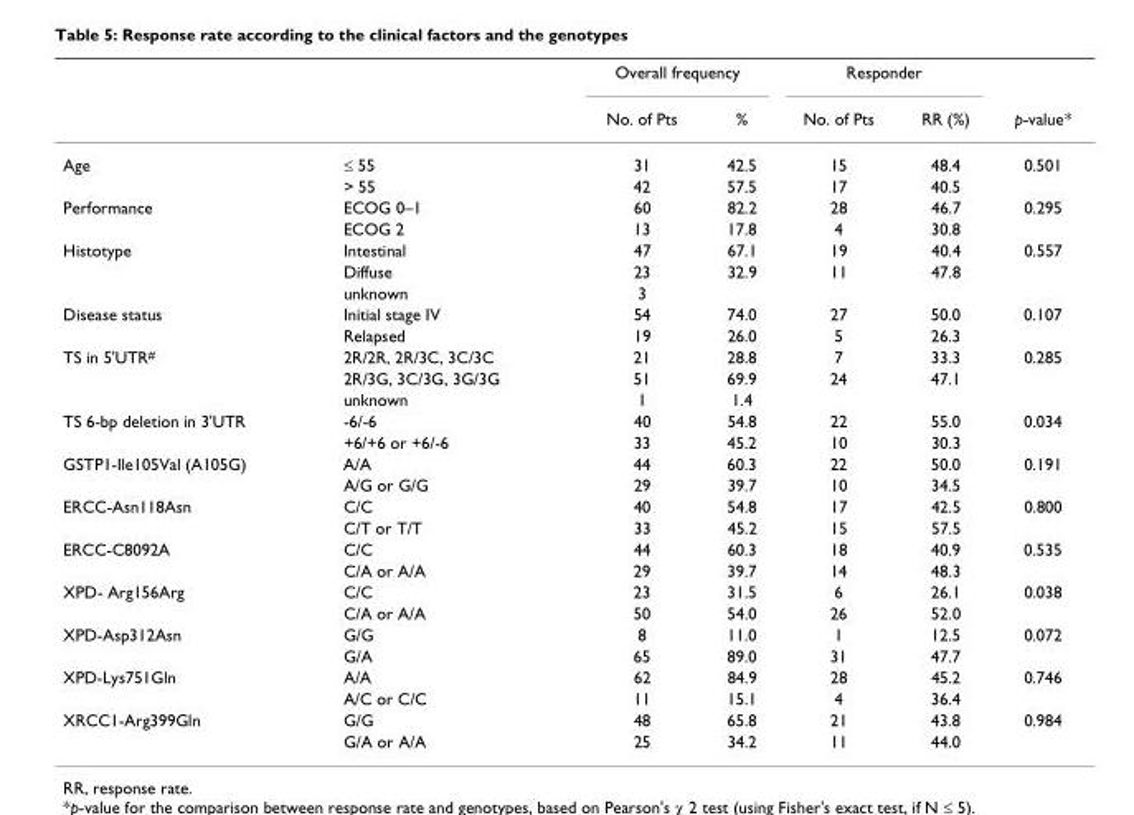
<table><thead><tr><td rowspan="2"></td><td rowspan="2"></td><td colspan="2">Overall frequency</td><td colspan="2">Responder</td><td rowspan="2">p-value*</td></tr><tr><td>No. of Pts</td><td>%</td><td>No. of Pts</td><td>RR (%)</td></tr></thead><tbody><tr><td rowspan="2">Age</td><td>≤ 55</td><td>31</td><td>42.5</td><td>15</td><td>48.4</td><td>0.501</td></tr><tr><td>&gt; 55</td><td>42</td><td>57.5</td><td>17</td><td>40.5</td><td></td></tr><tr><td rowspan="2">Performance</td><td>ECOG 0–1</td><td>60</td><td>82.2</td><td>28</td><td>46.7</td><td>0.295</td></tr><tr><td>ECOG 2</td><td>13</td><td>17.8</td><td>4</td><td>30.8</td><td></td></tr><tr><td rowspan="3">Histotype</td><td>Intestinal</td><td>47</td><td>67.1</td><td>19</td><td>40.4</td><td>0.557</td></tr><tr><td>Diffuse</td><td>23</td><td>32.9</td><td>11</td><td>47.8</td><td></td></tr><tr><td>unknown</td><td>3</td><td></td><td></td><td></td><td></td></tr><tr><td rowspan="2">Disease status</td><td>Initial stage IV</td><td>54</td><td>74.0</td><td>27</td><td>50.0</td><td>0.107</td></tr><tr><td>Relapsed</td><td>19</td><td>26.0</td><td>5</td><td>26.3</td><td></td></tr><tr><td rowspan="3">TS in 5&#x27;UTR<sup>#</sup></td><td>2R/2R, 2R/3C, 3C/3C</td><td>21</td><td>28.8</td><td>7</td><td>33.3</td><td>0.285</td></tr><tr><td>2R/3G, 3C/3G, 3G/3G</td><td>51</td><td>69.9</td><td>24</td><td>47.1</td><td></td></tr><tr><td>unknown</td><td>1</td><td>1.4</td><td></td><td></td><td></td></tr><tr><td rowspan="2">TS 6-bp deletion in 3&#x27;UTR</td><td>-6/-6</td><td>40</td><td>54.8</td><td>22</td><td>55.0</td><td>0.034</td></tr><tr><td>+6/+6 or +6/-6</td><td>33</td><td>45.2</td><td>10</td><td>30.3</td><td></td></tr><tr><td rowspan="2">GSTP1-Ile105Val (A105G)</td><td>A/A</td><td>44</td><td>60.3</td><td>22</td><td>50.0</td><td>0.191</td></tr><tr><td>A/G or G/G</td><td>29</td><td>39.7</td><td>10</td><td>34.5</td><td></td></tr><tr><td rowspan="2">ERCC-Asn118Asn</td><td>C/C</td><td>40</td><td>54.8</td><td>17</td><td>42.5</td><td>0.800</td></tr><tr><td>C/T or T/T</td><td>33</td><td>45.2</td><td>15</td><td>57.5</td><td></td></tr><tr><td rowspan="2">ERCC-C8092A</td><td>C/C</td><td>44</td><td>60.3</td><td>18</td><td>40.9</td><td>0.535</td></tr><tr><td>C/A or A/A</td><td>29</td><td>39.7</td><td>14</td><td>48.3</td><td></td></tr><tr><td rowspan="2">XPD- Arg156Arg</td><td>C/C</td><td>23</td><td>31.5</td><td>6</td><td>26.1</td><td>0.038</td></tr><tr><td>C/A or A/A</td><td>50</td><td>54.0</td><td>26</td><td>52.0</td><td></td></tr><tr><td rowspan="2">XPD-Asp312Asn</td><td>G/G</td><td>8</td><td>11.0</td><td>1</td><td>12.5</td><td>0.072</td></tr><tr><td>G/A</td><td>65</td><td>89.0</td><td>31</td><td>47.7</td><td></td></tr><tr><td rowspan="2">XPD-Lys751Gln</td><td>A/A</td><td>62</td><td>84.9</td><td>28</td><td>45.2</td><td>0.746</td></tr><tr><td>A/C or C/C</td><td>11</td><td>15.1</td><td>4</td><td>36.4</td><td></td></tr><tr><td rowspan="2">XRCC1-Arg399Gln</td><td>G/G</td><td>48</td><td>65.8</td><td>21</td><td>43.8</td><td>0.984</td></tr><tr><td>G/A or A/A</td><td>25</td><td>34.2</td><td>11</td><td>44.0</td><td></td></tr></tbody></table>